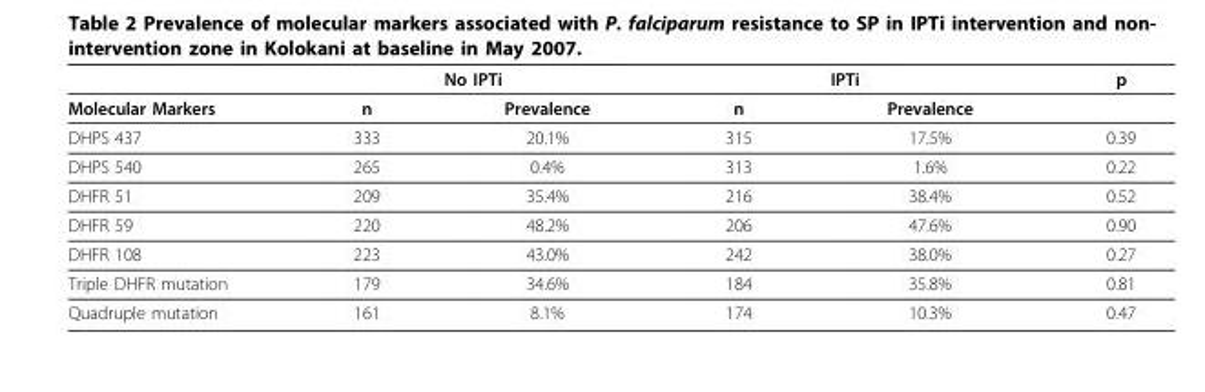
<table><thead><tr><td rowspan="2">Molecular Markers</td><td colspan="2">No IPTi</td><td colspan="2">IPTi</td><td rowspan="2">p</td></tr><tr><td>n</td><td>Prevalence</td><td>n</td><td>Prevalence</td></tr></thead><tbody><tr><td>DHPS 437</td><td>333</td><td>20.1%</td><td>315</td><td>17.5%</td><td>0.39</td></tr><tr><td>DHPS 540</td><td>265</td><td>0.4%</td><td>313</td><td>1.6%</td><td>0.22</td></tr><tr><td>DHFR 51</td><td>209</td><td>35.4%</td><td>216</td><td>38.4%</td><td>0.52</td></tr><tr><td>DHFR 59</td><td>220</td><td>48.2%</td><td>206</td><td>47.6%</td><td>0.90</td></tr><tr><td>DHFR 108</td><td>223</td><td>43.0%</td><td>242</td><td>38.0%</td><td>0.27</td></tr><tr><td>Triple DHFR mutation</td><td>179</td><td>34.6%</td><td>184</td><td>35.8%</td><td>0.81</td></tr><tr><td>Quadruple mutation</td><td>161</td><td>8.1%</td><td>174</td><td>10.3%</td><td>0.47</td></tr></tbody></table>